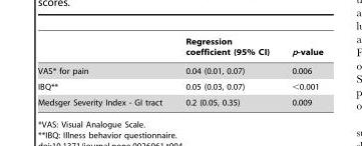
<table><thead><tr><td></td><td>Regression coefficient (95% CI)</td><td>p-value</td></tr></thead><tbody><tr><td>VAS* for pain</td><td>0.04 (0.01, 0.07)</td><td>0.006</td></tr><tr><td>IBQ**</td><td>0.05 (0.03, 0.07)</td><td>&lt;0.001</td></tr><tr><td>Medsger Severity Index - GI tract</td><td>0.2 (0.05, 0.35)</td><td>0.009</td></tr></tbody></table>